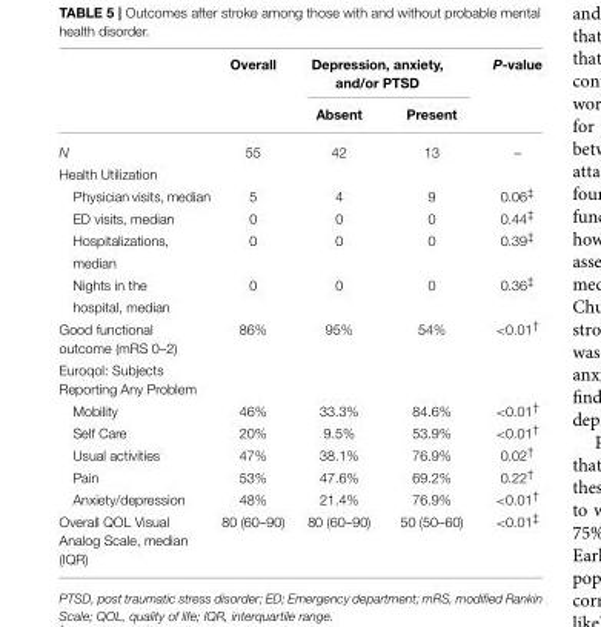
<table><thead><tr><td rowspan="2"></td><td rowspan="2">Overall</td><td colspan="2">Depression, anxiety, and/or PTSD</td><td rowspan="2">P-value</td></tr><tr><td>Absent</td><td>Present</td></tr></thead><tbody><tr><td>N</td><td>55</td><td>42</td><td>13</td><td>–</td></tr><tr><td colspan="5">Health Utilization</td></tr><tr><td>Physician visits, median</td><td>5</td><td>4</td><td>9</td><td>0.06<sup>‡</sup></td></tr><tr><td>ED visits, median</td><td>0</td><td>0</td><td>0</td><td>0.44<sup>‡</sup></td></tr><tr><td>Hospitalizations,</td><td>0</td><td>0</td><td>0</td><td>0.39<sup>‡</sup></td></tr><tr><td colspan="5">median</td></tr><tr><td>Nights in the</td><td>0</td><td>0</td><td>0</td><td>0.36<sup>‡</sup></td></tr><tr><td colspan="5">hospital, median</td></tr><tr><td>Good functional outcome (mRS 0–2)</td><td>86%</td><td>95%</td><td>54%</td><td>&lt;0.01<sup>†</sup></td></tr><tr><td colspan="5">Euroqol: Subjects Reporting Any Problem</td></tr><tr><td>Mobility</td><td>46%</td><td>33.3%</td><td>84.6%</td><td>&lt;0.01<sup>†</sup></td></tr><tr><td>Self Care</td><td>20%</td><td>9.5%</td><td>53.9%</td><td>&lt;0.01<sup>†</sup></td></tr><tr><td>Usual activities</td><td>47%</td><td>38.1%</td><td>76.9%</td><td>0.02<sup>†</sup></td></tr><tr><td>Pain</td><td>53%</td><td>47.6%</td><td>69.2%</td><td>0.22<sup>†</sup></td></tr><tr><td>Anxiety/depression</td><td>48%</td><td>21.4%</td><td>76.9%</td><td>&lt;0.01<sup>†</sup></td></tr><tr><td>Overall QOL Visual Analog Scale, median (IQR)</td><td>80 (60–90)</td><td>80 (60–90)</td><td>50 (50–60)</td><td>&lt;0.01<sup>‡</sup></td></tr></tbody></table>